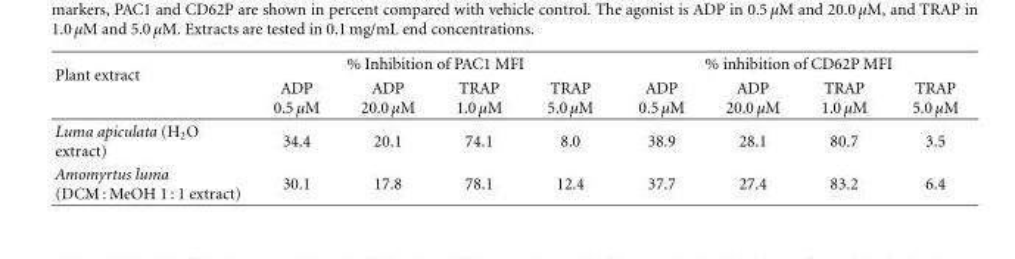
<table><thead><tr><td rowspan="2">Plant extract</td><td colspan="4">% Inhibition of PAC1 MFI</td><td colspan="4">% inhibition of CD62P MFI</td></tr><tr><td>ADP 0.5 μM</td><td>ADP 20.0 μM</td><td>TRAP 1.0 μM</td><td>TRAP 5.0 μM</td><td>ADP 0.5 μM</td><td>ADP 20.0 μM</td><td>TRAP 1.0 μM</td><td>TRAP 5.0 μM</td></tr></thead><tbody><tr><td>Luma apiculata (H<sub>2</sub>O extract)</td><td>34.4</td><td>20.1</td><td>74.1</td><td>8.0</td><td>38.9</td><td>28.1</td><td>80.7</td><td>3.5</td></tr><tr><td>Amomyrtus luma (DCM : MeOH 1 : 1 extract)</td><td>30.1</td><td>17.8</td><td>78.1</td><td>12.4</td><td>37.7</td><td>27.4</td><td>83.2</td><td>6.4</td></tr></tbody></table>